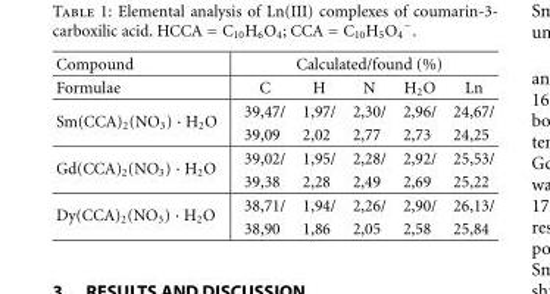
<table><tbody><tr><td>Compound</td><td colspan="5">Calculated/found (%)</td></tr><tr><td>Formulae</td><td>C</td><td>H</td><td>N</td><td>H<sub>2</sub>O</td><td>Ln</td></tr><tr><td rowspan="2">Sm(CCA)<sub>2</sub>(NO<sub>3</sub>) · H<sub>2</sub>O</td><td>39,47/</td><td>1,97/</td><td>2,30/</td><td>2,96/</td><td>24,67/</td></tr><tr><td>39,09</td><td>2,02</td><td>2,77</td><td>2,73</td><td>24,25</td></tr><tr><td rowspan="2">Gd(CCA)<sub>2</sub>(NO<sub>3</sub>) · H<sub>2</sub>O</td><td>39,02/</td><td>1,95/</td><td>2,28/</td><td>2,92/</td><td>25,53/</td></tr><tr><td>39,38</td><td>2,28</td><td>2,49</td><td>2,69</td><td>25,22</td></tr><tr><td rowspan="2">Dy(CCA)<sub>2</sub>(NO<sub>3</sub>) · H<sub>2</sub>O</td><td>38,71/</td><td>1,94/</td><td>2,26/</td><td>2,90/</td><td>26,13/</td></tr><tr><td>38,90</td><td>1,86</td><td>2,05</td><td>2,58</td><td>25,84</td></tr></tbody></table>